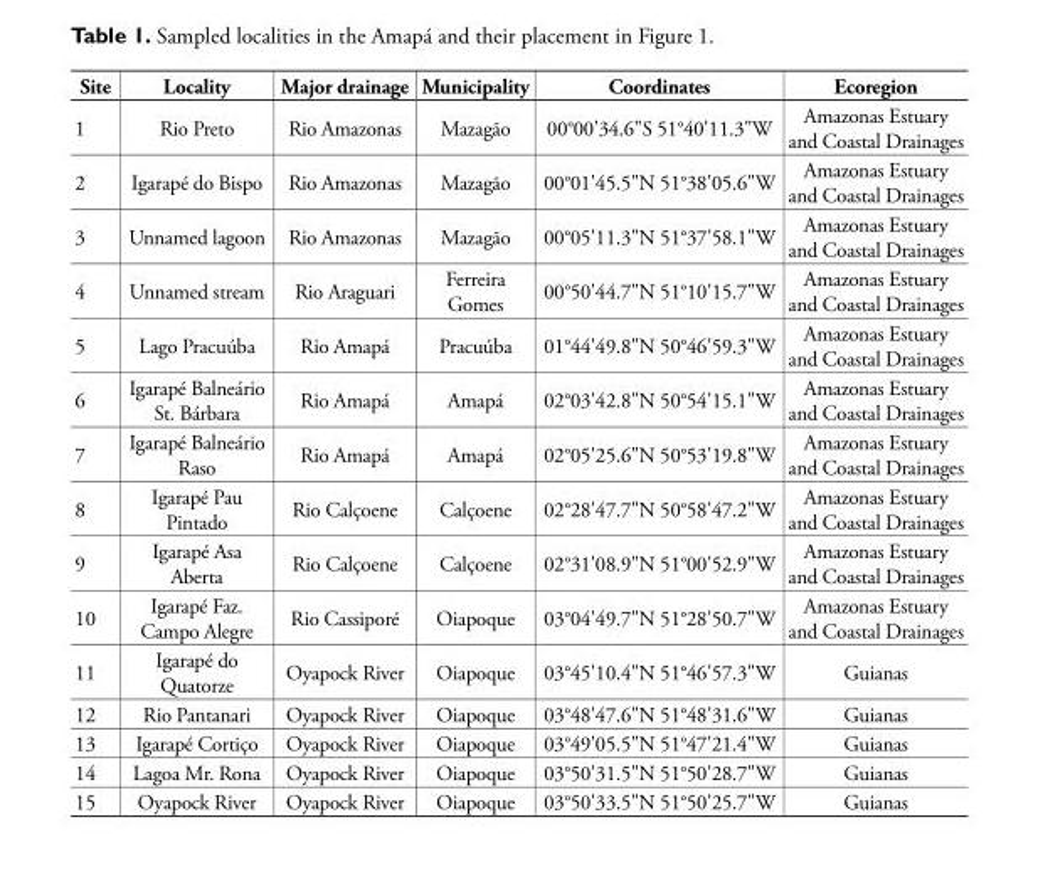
<table><thead><tr><td>Site</td><td>Locality</td><td>Major drainage</td><td>Municipality</td><td>Coordinates</td><td>Ecoregion</td></tr></thead><tbody><tr><td>1</td><td>Rio Preto</td><td>Rio Amazonas</td><td>Mazagão</td><td>00°00&#x27;34.6&quot;S 51°40&#x27;11.3&quot;W</td><td>Amazonas Estuary and Coastal Drainages</td></tr><tr><td>2</td><td>Igarapé do Bispo</td><td>Rio Amazonas</td><td>Mazagão</td><td>00°01&#x27;45.5&quot;N 51°38&#x27;05.6&quot;W</td><td>Amazonas Estuary and Coastal Drainages</td></tr><tr><td>3</td><td>Unnamed lagoon</td><td>Rio Amazonas</td><td>Mazagão</td><td>00°05&#x27;11.3&quot;N 51°37&#x27;58.1&quot;W</td><td>Amazonas Estuary and Coastal Drainages</td></tr><tr><td>4</td><td>Unnamed stream</td><td>Rio Araguari</td><td>Ferreira Gomes</td><td>00°50&#x27;44.7&quot;N 51°10&#x27;15.7&quot;W</td><td>Amazonas Estuary and Coastal Drainages</td></tr><tr><td>5</td><td>Lago Pracuúba</td><td>Rio Amapá</td><td>Pracuúba</td><td>01°44&#x27;49.8&quot;N 50°46&#x27;59.3&quot;W</td><td>Amazonas Estuary and Coastal Drainages</td></tr><tr><td>6</td><td>Igarapé Balneário St. Bárbara</td><td>Rio Amapá</td><td>Amapá</td><td>02°03&#x27;42.8&quot;N 50°54&#x27;15.1&quot;W</td><td>Amazonas Estuary and Coastal Drainages</td></tr><tr><td>7</td><td>Igarapé Balneário Raso</td><td>Rio Amapá</td><td>Amapá</td><td>02°05&#x27;25.6&quot;N 50°53&#x27;19.8&quot;W</td><td>Amazonas Estuary and Coastal Drainages</td></tr><tr><td>8</td><td>Igarapé Pau Pintado</td><td>Rio Calçoene</td><td>Calçoene</td><td>02°28&#x27;47.7&quot;N 50°58&#x27;47.2&quot;W</td><td>Amazonas Estuary and Coastal Drainages</td></tr><tr><td>9</td><td>Igarapé Asa Aberta</td><td>Rio Calçoene</td><td>Calçoene</td><td>02°31&#x27;08.9&quot;N 51°00&#x27;52.9&quot;W</td><td>Amazonas Estuary and Coastal Drainages</td></tr><tr><td>10</td><td>Igarapé Faz. Campo Alegre</td><td>Rio Cassiporé</td><td>Oiapoque</td><td>03°04&#x27;49.7&quot;N 51°28&#x27;50.7&quot;W</td><td>Amazonas Estuary and Coastal Drainages</td></tr><tr><td>11</td><td>Igarapé do Quatorze</td><td>Oyapock River</td><td>Oiapoque</td><td>03°45&#x27;10.4&quot;N 51°46&#x27;57.3&quot;W</td><td>Guianas</td></tr><tr><td>12</td><td>Rio Pantanari</td><td>Oyapock River</td><td>Oiapoque</td><td>03°48&#x27;47.6&quot;N 51°48&#x27;31.6&quot;W</td><td>Guianas</td></tr><tr><td>13</td><td>Igarapé Cortiço</td><td>Oyapock River</td><td>Oiapoque</td><td>03°49&#x27;05.5&quot;N 51°47&#x27;21.4&quot;W</td><td>Guianas</td></tr><tr><td>14</td><td>Lagoa Mr. Rona</td><td>Oyapock River</td><td>Oiapoque</td><td>03°50&#x27;31.5&quot;N 51°50&#x27;28.7&quot;W</td><td>Guianas</td></tr><tr><td>15</td><td>Oyapock River</td><td>Oyapock River</td><td>Oiapoque</td><td>03°50&#x27;33.5&quot;N 51°50&#x27;25.7&quot;W</td><td>Guianas</td></tr></tbody></table>